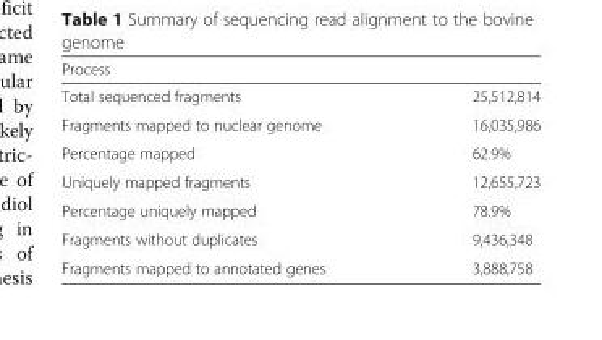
<table><thead><tr><td colspan="2">Process</td></tr><tr><td>Total sequenced fragments</td><td>25,512,814</td></tr></thead><tbody><tr><td>Fragments mapped to nuclear genome</td><td>16,035,986</td></tr><tr><td>Percentage mapped</td><td>62.9%</td></tr><tr><td>Uniquely mapped fragments</td><td>12,655,723</td></tr><tr><td>Percentage uniquely mapped</td><td>78.9%</td></tr><tr><td>Fragments without duplicates</td><td>9,436,348</td></tr><tr><td>Fragments mapped to annotated genes</td><td>3,888,758</td></tr></tbody></table>